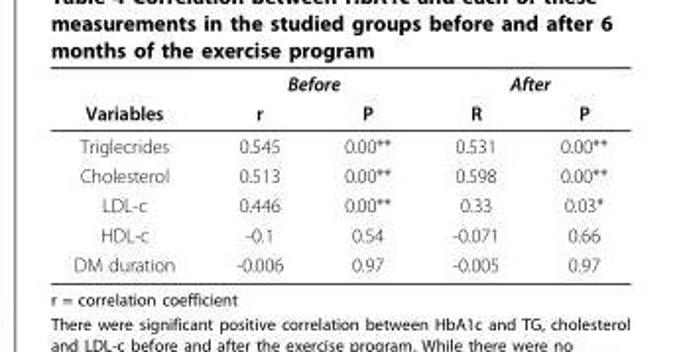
<table><thead><tr><td rowspan="2">Variables</td><td colspan="2">Before</td><td colspan="2">After</td></tr><tr><td>r</td><td>P</td><td>R</td><td>P</td></tr></thead><tbody><tr><td>Triglecrides</td><td>0.545</td><td>0.00**</td><td>0.531</td><td>0.00**</td></tr><tr><td>Cholesterol</td><td>0.513</td><td>0.00**</td><td>0.598</td><td>0.00**</td></tr><tr><td>LDL-c</td><td>0.446</td><td>0.00**</td><td>0.33</td><td>0.03*</td></tr><tr><td>HDL-c</td><td>-0.1</td><td>0.54</td><td>-0.071</td><td>0.66</td></tr><tr><td>DM duration</td><td>-0.006</td><td>0.97</td><td>-0.005</td><td>0.97</td></tr></tbody></table>